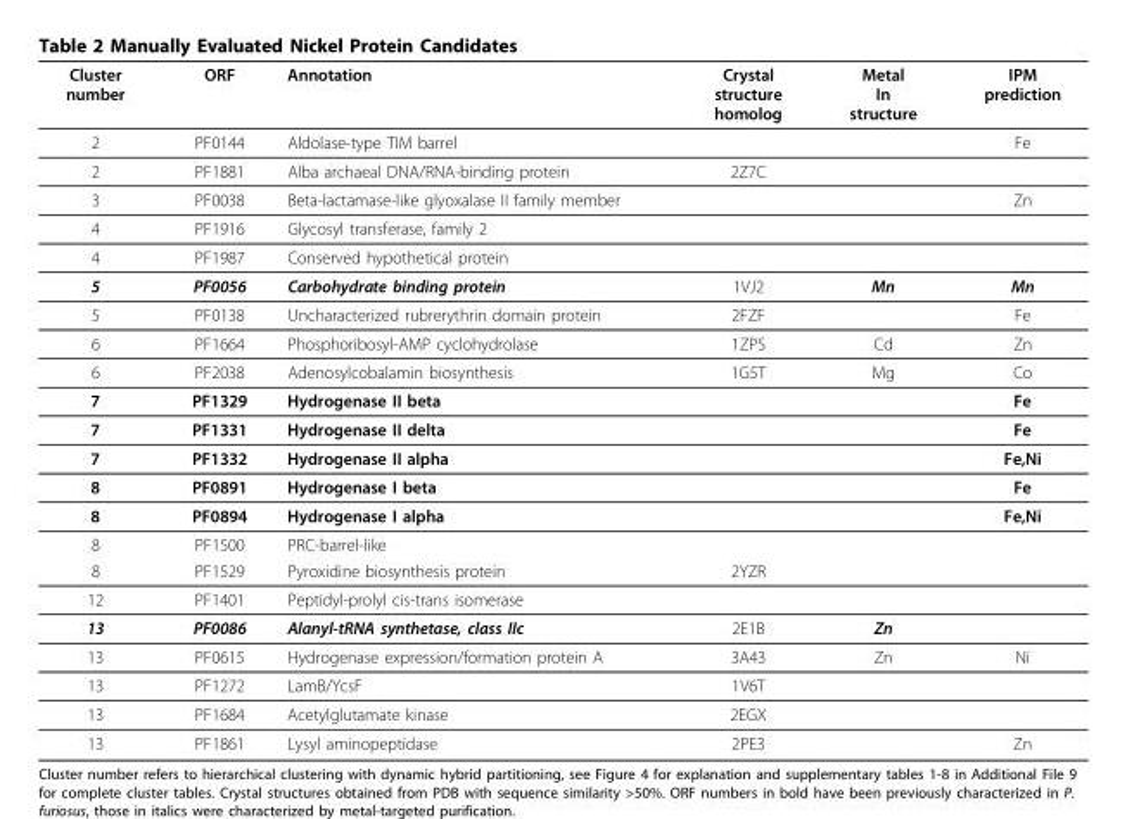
<table><thead><tr><td>Cluster number</td><td>ORF</td><td>Annotation</td><td>Crystal structure homolog</td><td>Metal In structure</td><td>IPM prediction</td></tr></thead><tbody><tr><td>2</td><td>PF0144</td><td>Aldolase-type TIM barrel</td><td></td><td></td><td>Fe</td></tr><tr><td>2</td><td>PF1881</td><td>Alba archaeal DNA/RNA-binding protein</td><td>2Z7C</td><td></td><td></td></tr><tr><td>3</td><td>PF0038</td><td>Beta-lactamase-like glyoxalase II family member</td><td></td><td></td><td>Zn</td></tr><tr><td>4</td><td>PF1916</td><td>Glycosyl transferase, family 2</td><td></td><td></td><td></td></tr><tr><td>4</td><td>PF1987</td><td>Conserved hypothetical protein</td><td></td><td></td><td></td></tr><tr><td>5</td><td>PF0056</td><td>Carbohydrate binding protein</td><td>1VJ2</td><td>Mn</td><td>Mn</td></tr><tr><td>5</td><td>PF0138</td><td>Uncharacterized rubrerythrin domain protein</td><td>2FZF</td><td></td><td>Fe</td></tr><tr><td>6</td><td>PF1664</td><td>Phosphoribosyl-AMP cyclohydrolase</td><td>1ZPS</td><td>Cd</td><td>Zn</td></tr><tr><td>6</td><td>PF2038</td><td>Adenosylcobalamin biosynthesis</td><td>1G5T</td><td>Mg</td><td>Co</td></tr><tr><td>7</td><td>PF1329</td><td>Hydrogenase II beta</td><td></td><td></td><td>Fe</td></tr><tr><td>7</td><td>PF1331</td><td>Hydrogenase II delta</td><td></td><td></td><td>Fe</td></tr><tr><td>7</td><td>PF1332</td><td>Hydrogenase II alpha</td><td></td><td></td><td>Fe,Ni</td></tr><tr><td>8</td><td>PF0891</td><td>Hydrogenase I beta</td><td></td><td></td><td>Fe</td></tr><tr><td>8</td><td>PF0894</td><td>Hydrogenase I alpha</td><td></td><td></td><td>Fe,Ni</td></tr><tr><td>8</td><td>PF1500</td><td>PRC-barrel-like</td><td></td><td></td><td></td></tr><tr><td>8</td><td>PF1529</td><td>Pyroxidine biosynthesis protein</td><td>2YZR</td><td></td><td></td></tr><tr><td>12</td><td>PF1401</td><td>Peptidyl-prolyl cis-trans isomerase</td><td></td><td></td><td></td></tr><tr><td>13</td><td>PF0086</td><td>Alanyl-tRNA synthetase, class IIc</td><td>2E1B</td><td>Zn</td><td></td></tr><tr><td>13</td><td>PF0615</td><td>Hydrogenase expression/formation protein A</td><td>3A43</td><td>Zn</td><td>Ni</td></tr><tr><td>13</td><td>PF1272</td><td>LamB/YcsF</td><td>1V6T</td><td></td><td></td></tr><tr><td>13</td><td>PF1684</td><td>Acetylglutamate kinase</td><td>2EGX</td><td></td><td></td></tr><tr><td>13</td><td>PF1861</td><td>Lysyl aminopeptidase</td><td>2PE3</td><td></td><td>Zn</td></tr></tbody></table>